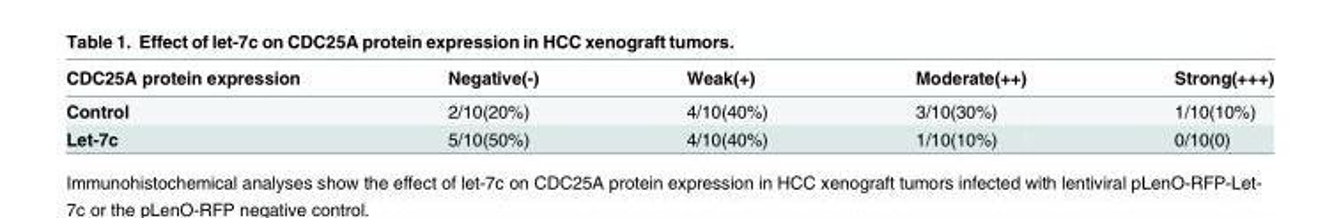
<table><thead><tr><td>CDC25A protein expression</td><td>Negative(-)</td><td>Weak(+)</td><td>Moderate(++)</td><td>Strong(+++)</td></tr></thead><tbody><tr><td>Control</td><td>2/10(20%)</td><td>4/10(40%)</td><td>3/10(30%)</td><td>1/10(10%)</td></tr><tr><td>Let-7c</td><td>5/10(50%)</td><td>4/10(40%)</td><td>1/10(10%)</td><td>0/10(0)</td></tr></tbody></table>